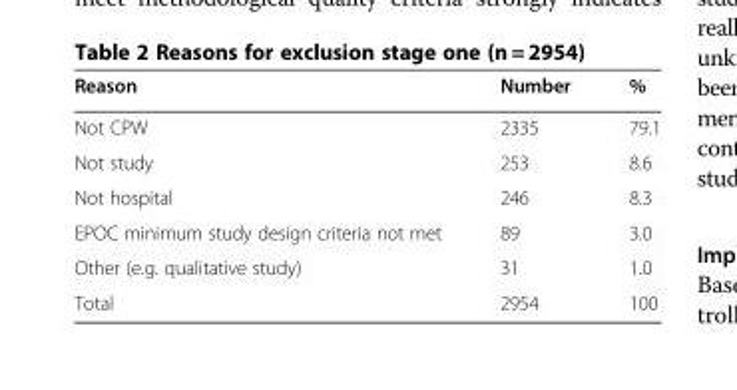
<table><thead><tr><td>Reason</td><td>Number</td><td>%</td></tr></thead><tbody><tr><td>Not CPW</td><td>2335</td><td>79.1</td></tr><tr><td>Not study</td><td>253</td><td>8.6</td></tr><tr><td>Not hospital</td><td>246</td><td>8.3</td></tr><tr><td>EPOC minimum study design criteria not met</td><td>89</td><td>3.0</td></tr><tr><td>Other (e.g. qualitative study)</td><td>31</td><td>1.0</td></tr><tr><td>Total</td><td>2954</td><td>100</td></tr></tbody></table>